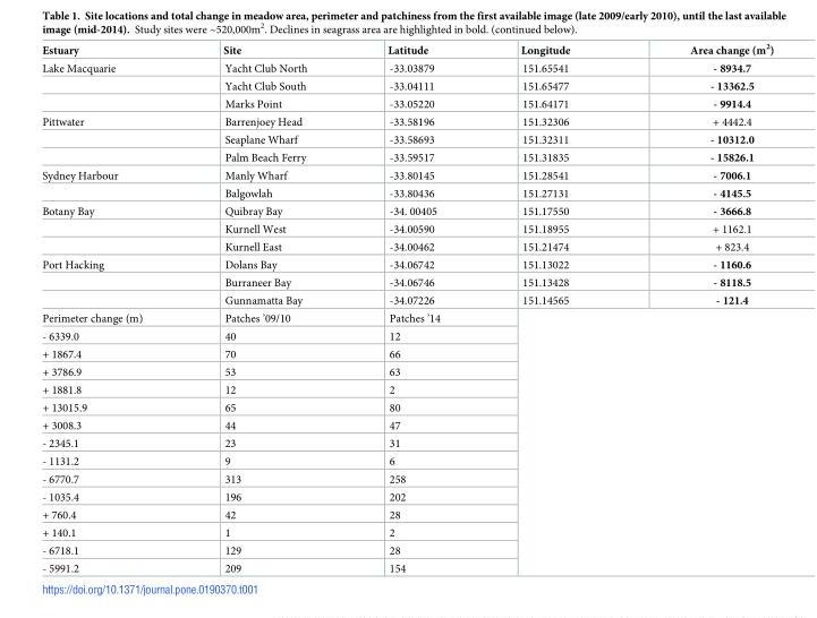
<table><thead><tr><td>Estuary</td><td>Site</td><td>Latitude</td><td>Longitude</td><td>Area change (m<sup>2</sup>)</td></tr></thead><tbody><tr><td rowspan="3">Lake Macquarie</td><td>Yacht Club North</td><td>-33.03879</td><td>151.65541</td><td>- 8934.7</td></tr><tr><td>Yacht Club South</td><td>-33.04111</td><td>151.65477</td><td>- 13362.5</td></tr><tr><td>Marks Point</td><td>-33.05220</td><td>151.64171</td><td>- 9914.4</td></tr><tr><td rowspan="3">Pittwater</td><td>Barrenjoey Head</td><td>-33.58196</td><td>151.32306</td><td>+ 4442.4</td></tr><tr><td>Seaplane Wharf</td><td>-33.58693</td><td>151.32311</td><td>- 10312.0</td></tr><tr><td>Palm Beach Ferry</td><td>-33.59517</td><td>151.31835</td><td>- 15826.1</td></tr><tr><td rowspan="2">Sydney Harbour</td><td>Manly Wharf</td><td>-33.80145</td><td>151.28541</td><td>- 7006.1</td></tr><tr><td>Balgowlah</td><td>-33.80436</td><td>151.27131</td><td>- 4145.5</td></tr><tr><td rowspan="3">Botany Bay</td><td>Quibray Bay</td><td>-34. 00405</td><td>151.17550</td><td>- 3666.8</td></tr><tr><td>Kurnell West</td><td>-34.00590</td><td>151.18955</td><td>+ 1162.1</td></tr><tr><td>Kurnell East</td><td>-34.00462</td><td>151.21474</td><td>+ 823.4</td></tr><tr><td rowspan="3">Port Hacking</td><td>Dolans Bay</td><td>-34.06742</td><td>151.13022</td><td>- 1160.6</td></tr><tr><td>Burraneer Bay</td><td>-34.06746</td><td>151.13428</td><td>- 8118.5</td></tr><tr><td>Gunnamatta Bay</td><td>-34.07226</td><td>151.14565</td><td>- 121.4</td></tr><tr><td>Perimeter change (m)</td><td>Patches ’09/10</td><td>Patches ’14</td><td rowspan="15" colspan="2"></td></tr><tr><td>- 6339.0</td><td>40</td><td>12</td></tr><tr><td>+ 1867.4</td><td>70</td><td>66</td></tr><tr><td>+ 3786.9</td><td>53</td><td>63</td></tr><tr><td>+ 1881.8</td><td>12</td><td>2</td></tr><tr><td>+ 13015.9</td><td>65</td><td>80</td></tr><tr><td>+ 3008.3</td><td>44</td><td>47</td></tr><tr><td>- 2345.1</td><td>23</td><td>31</td></tr><tr><td>- 1131.2</td><td>9</td><td>6</td></tr><tr><td>- 6770.7</td><td>313</td><td>258</td></tr><tr><td>- 1035.4</td><td>196</td><td>202</td></tr><tr><td>+ 760.4</td><td>42</td><td>28</td></tr><tr><td>+ 140.1</td><td>1</td><td>2</td></tr><tr><td>- 6718.1</td><td>129</td><td>28</td></tr><tr><td>- 5991.2</td><td>209</td><td>154</td></tr></tbody></table>